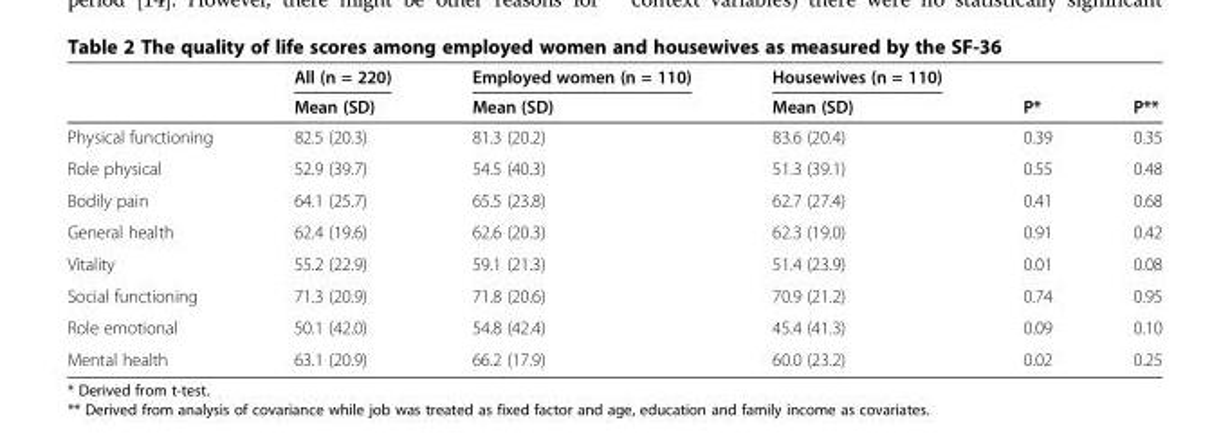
<table><thead><tr><td></td><td>All (n = 220)</td><td>Employed women (n = 110)</td><td>Housewives (n = 110)</td><td></td><td></td></tr></thead><tbody><tr><td></td><td>Mean (SD)</td><td>Mean (SD)</td><td>Mean (SD)</td><td>P*</td><td>P**</td></tr><tr><td>Physical functioning</td><td>82.5 (20.3)</td><td>81.3 (20.2)</td><td>83.6 (20.4)</td><td>0.39</td><td>0.35</td></tr><tr><td>Role physical</td><td>52.9 (39.7)</td><td>54.5 (40.3)</td><td>51.3 (39.1)</td><td>0.55</td><td>0.48</td></tr><tr><td>Bodily pain</td><td>64.1 (25.7)</td><td>65.5 (23.8)</td><td>62.7 (27.4)</td><td>0.41</td><td>0.68</td></tr><tr><td>General health</td><td>62.4 (19.6)</td><td>62.6 (20.3)</td><td>62.3 (19.0)</td><td>0.91</td><td>0.42</td></tr><tr><td>Vitality</td><td>55.2 (22.9)</td><td>59.1 (21.3)</td><td>51.4 (23.9)</td><td>0.01</td><td>0.08</td></tr><tr><td>Social functioning</td><td>71.3 (20.9)</td><td>71.8 (20.6)</td><td>70.9 (21.2)</td><td>0.74</td><td>0.95</td></tr><tr><td>Role emotional</td><td>50.1 (42.0)</td><td>54.8 (42.4)</td><td>45.4 (41.3)</td><td>0.09</td><td>0.10</td></tr><tr><td>Mental health</td><td>63.1 (20.9)</td><td>66.2 (17.9)</td><td>60.0 (23.2)</td><td>0.02</td><td>0.25</td></tr></tbody></table>